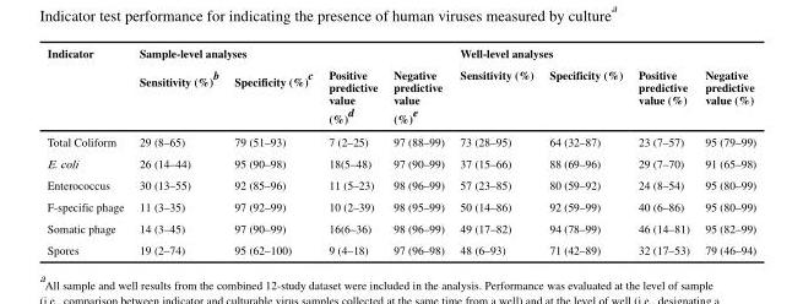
<table><thead><tr><td rowspan="2">Indicator</td><td colspan="4">Sample-level analyses</td><td colspan="4">Well-level analyses</td></tr><tr><td>Sensitivity (%)<sup>b</sup></td><td>Specificity (%)<sup>c</sup></td><td>Positive predictive value (%)<sup>d</sup></td><td>Negative predictive value (%)<sup>e</sup></td><td>Sensitivity (%)</td><td>Specificity (%)</td><td>Positive predictive value (%)</td><td>Negative predictive value (%)</td></tr></thead><tbody><tr><td>Total Coliform</td><td>29 (8–65)</td><td>79 (51–93)</td><td>7 (2–25)</td><td>97 (88–99)</td><td>73 (28–95)</td><td>64 (32–87)</td><td>23 (7–57)</td><td>95 (79–99)</td></tr><tr><td>E. coli</td><td>26 (14–44)</td><td>95 (90–98)</td><td>18(5–48)</td><td>97 (90–99)</td><td>37 (15–66)</td><td>88 (69–96)</td><td>29 (7–70)</td><td>91 (65–98)</td></tr><tr><td>Enterococcus</td><td>30 (13–55)</td><td>92 (85–96)</td><td>11 (5–23)</td><td>98 (96–99)</td><td>57 (23–85)</td><td>80 (59–92)</td><td>24 (8–54)</td><td>95 (80–99)</td></tr><tr><td>F-specific phage</td><td>11 (3–35)</td><td>97 (92–99)</td><td>10 (2–39)</td><td>98 (95–99)</td><td>50 (14–86)</td><td>92 (59–99)</td><td>40 (6–86)</td><td>95 (80–99)</td></tr><tr><td>Somatic phage</td><td>14 (3–45)</td><td>97 (90–99)</td><td>16(6–36)</td><td>98 (96–99)</td><td>49 (17–82)</td><td>94 (78–99)</td><td>46 (14–81)</td><td>95 (82–99)</td></tr><tr><td>Spores</td><td>19 (2–74)</td><td>95 (62–100)</td><td>9 (4–18)</td><td>97 (96–98)</td><td>48 (6–93)</td><td>71 (42–89)</td><td>32 (17–53)</td><td>79 (46–94)</td></tr></tbody></table>